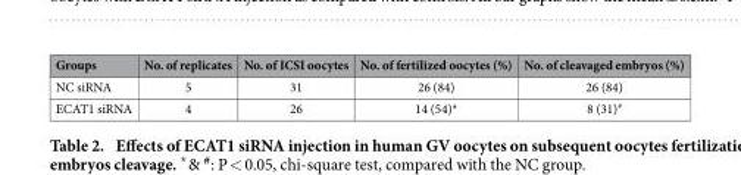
<table><thead><tr><td>Groups</td><td>No. of replicates</td><td>No. of ICSI oocytes</td><td>No. of fertilized oocytes (%)</td><td>No. of cleavaged embryos (%)</td></tr></thead><tbody><tr><td>NC siRNA</td><td>5</td><td>31</td><td>26 (84)</td><td>26 (84)</td></tr><tr><td>ECAT1 siRNA</td><td>4</td><td>26</td><td>14 (54)*</td><td>8 (31)<sup>#</sup></td></tr></tbody></table>